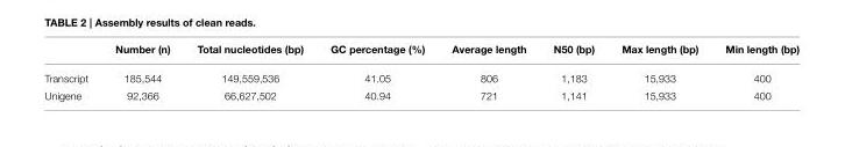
<table><thead><tr><td></td><td>Number (n)</td><td>Total nucleotides (bp)</td><td>GC percentage (%)</td><td>Average length</td><td>N50 (bp)</td><td>Max length (bp)</td><td>Min length (bp)</td></tr></thead><tbody><tr><td>Transcript</td><td>185,544</td><td>149,559,536</td><td>41.05</td><td>806</td><td>1,183</td><td>15,933</td><td>400</td></tr><tr><td>Unigene</td><td>92,366</td><td>66,627,502</td><td>40.94</td><td>721</td><td>1,141</td><td>15,933</td><td>400</td></tr></tbody></table>